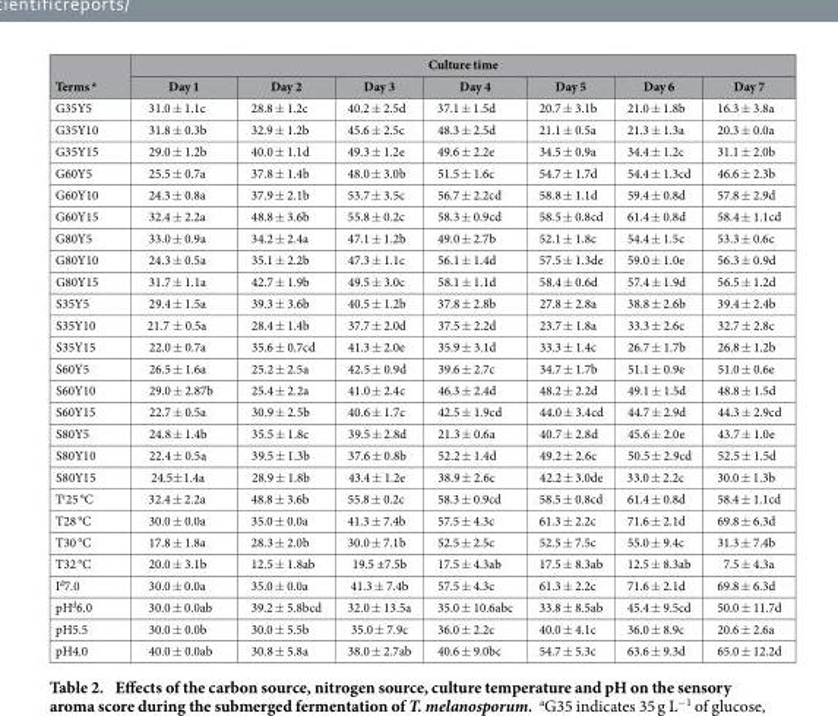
<table><thead><tr><td rowspan="2">Terms a</td><td colspan="7">Culture time</td></tr><tr><td>Day 1</td><td>Day 2</td><td>Day 3</td><td>Day 4</td><td>Day 5</td><td>Day 6</td><td>Day 7</td></tr></thead><tbody><tr><td>G35Y5</td><td>31.0 ± 1.1c</td><td>28.8 ± 1.2c</td><td>40.2 ± 2.5d</td><td>37.1 ± 1.5d</td><td>20.7 ± 3.1b</td><td>21.0 ± 1.8b</td><td>16.3 ± 3.8a</td></tr><tr><td>G35Y10</td><td>31.8 ± 0.3b</td><td>32.9 ± 1.2b</td><td>45.6 ± 2.5c</td><td>48.3 ± 2.5d</td><td>21.1 ± 0.5a</td><td>21.3 ± 1.3a</td><td>20.3 ± 0.0a</td></tr><tr><td>G35Y15</td><td>29.0 ± 1.2b</td><td>40.0 ± 1.1d</td><td>49.3 ± 1.2e</td><td>49.6 ± 2.2e</td><td>34.5 ± 0.9a</td><td>34.4 ± 1.2c</td><td>31.1 ± 2.0b</td></tr><tr><td>G60Y5</td><td>25.5 ± 0.7a</td><td>37.8 ± 1.4b</td><td>48.0 ± 3.0b</td><td>51.5 ± 1.6c</td><td>54.7 ± 1.7d</td><td>54.4 ± 1.3cd</td><td>46.6 ± 2.3b</td></tr><tr><td>G60Y10</td><td>24.3 ± 0.8a</td><td>37.9 ± 2.1b</td><td>53.7 ± 3.5c</td><td>56.7 ± 2.2cd</td><td>58.8 ± 1.1d</td><td>59.4 ± 0.8d</td><td>57.8 ± 2.9d</td></tr><tr><td>G60Y15</td><td>32.4 ± 2.2a</td><td>48.8 ± 3.6b</td><td>55.8 ± 0.2c</td><td>58.3 ± 0.9cd</td><td>58.5 ± 0.8cd</td><td>61.4 ± 0.8d</td><td>58.4 ± 1.1cd</td></tr><tr><td>G80Y5</td><td>33.0 ± 0.9a</td><td>34.2 ± 2.4a</td><td>47.1 ± 1.2b</td><td>49.0 ± 2.7b</td><td>52.1 ± 1.8c</td><td>54.4 ± 1.5c</td><td>53.3 ± 0.6c</td></tr><tr><td>G80Y10</td><td>24.3 ± 0.5a</td><td>35.1 ± 2.2b</td><td>47.3 ± 1.1c</td><td>56.1 ± 1.4d</td><td>57.5 ± 1.3de</td><td>59.0 ± 1.0e</td><td>56.3 ± 0.9d</td></tr><tr><td>G80Y15</td><td>31.7 ± 1.1a</td><td>42.7 ± 1.9b</td><td>49.5 ± 3.0c</td><td>58.1 ± 1.1d</td><td>58.4 ± 0.6d</td><td>57.4 ± 1.9d</td><td>56.5 ± 1.2d</td></tr><tr><td>S35Y5</td><td>29.4 ± 1.5a</td><td>39.3 ± 3.6b</td><td>40.5 ± 1.2b</td><td>37.8 ± 2.8b</td><td>27.8 ± 2.8a</td><td>38.8 ± 2.6b</td><td>39.4 ± 2.4b</td></tr><tr><td>S35Y10</td><td>21.7 ± 0.5a</td><td>28.4 ± 1.4b</td><td>37.7 ± 2.0d</td><td>37.5 ± 2.2d</td><td>23.7 ± 1.8a</td><td>33.3 ± 2.6c</td><td>32.7 ± 2.8c</td></tr><tr><td>S35Y15</td><td>22.0 ± 0.7a</td><td>35.6 ± 0.7cd</td><td>41.3 ± 2.0e</td><td>35.9 ± 3.1d</td><td>33.3 ± 1.4c</td><td>26.7 ± 1.7b</td><td>26.8 ± 1.2b</td></tr><tr><td>S60Y5</td><td>26.5 ± 1.6a</td><td>25.2 ± 2.5a</td><td>42.5 ± 0.9d</td><td>39.6 ± 2.7c</td><td>34.7 ± 1.7b</td><td>51.1 ± 0.9e</td><td>51.0 ± 0.6e</td></tr><tr><td>S60Y10</td><td>29.0 ± 2.87b</td><td>25.4 ± 2.2a</td><td>41.0 ± 2.4c</td><td>46.3 ± 2.4d</td><td>48.2 ± 2.2d</td><td>49.1 ± 1.5d</td><td>48.8 ± 1.5d</td></tr><tr><td>S60Y15</td><td>22.7 ± 0.5a</td><td>30.9 ± 2.5b</td><td>40.6 ± 1.7c</td><td>42.5 ± 1.9cd</td><td>44.0 ± 3.4cd</td><td>44.7 ± 2.9d</td><td>44.3 ± 2.9cd</td></tr><tr><td>S80Y5</td><td>24.8 ± 1.4b</td><td>35.5 ± 1.8c</td><td>39.5 ± 2.8d</td><td>21.3 ± 0.6a</td><td>40.7 ± 2.8d</td><td>45.6 ± 2.0e</td><td>43.7 ± 1.0e</td></tr><tr><td>S80Y10</td><td>22.4 ± 0.5a</td><td>39.5 ± 1.3b</td><td>37.6 ± 0.8b</td><td>52.2 ± 1.4d</td><td>49.2 ± 2.6c</td><td>50.5 ± 2.9cd</td><td>52.5 ± 1.5d</td></tr><tr><td>S80Y15</td><td>24.5± 1.4a</td><td>28.9 ± 1.8b</td><td>43.4 ± 1.2e</td><td>38.9 ± 2.6c</td><td>42.2 ± 3.0de</td><td>33.0 ± 2.2c</td><td>30.0 ± 1.3b</td></tr><tr><td>T<sup>c</sup>25 °C</td><td>32.4 ± 2.2a</td><td>48.8 ± 3.6b</td><td>55.8 ± 0.2c</td><td>58.3 ± 0.9cd</td><td>58.5 ± 0.8cd</td><td>61.4 ± 0.8d</td><td>58.4 ± 1.1cd</td></tr><tr><td>T28 °C</td><td>30.0 ± 0.0a</td><td>35.0 ± 0.0a</td><td>41.3 ± 7.4b</td><td>57.5 ± 4.3c</td><td>61.3 ± 2.2c</td><td>71.6 ± 2.1d</td><td>69.8 ± 6.3d</td></tr><tr><td>T30 °C</td><td>17.8 ± 1.8a</td><td>28.3 ± 2.0b</td><td>30.0 ± 7.1b</td><td>52.5 ± 2.5c</td><td>52.5 ± 7.5c</td><td>55.0 ± 9.4c</td><td>31.3 ± 7.4b</td></tr><tr><td>T32 °C</td><td>20.0 ± 3.1b</td><td>12.5 ± 1.8ab</td><td>19.5 ±7.5b</td><td>17.5 ± 4.3ab</td><td>17.5 ± 8.3ab</td><td>12.5 ± 8.3ab</td><td>7.5 ± 4.3a</td></tr><tr><td>I<sup>d</sup>7.0</td><td>30.0 ± 0.0a</td><td>35.0 ± 0.0a</td><td>41.3 ± 7.4b</td><td>57.5 ± 4.3c</td><td>61.3 ± 2.2c</td><td>71.6 ± 2.1d</td><td>69.8 ± 6.3d</td></tr><tr><td>pH<sup>d</sup>6.0</td><td>30.0 ± 0.0ab</td><td>39.2 ± 5.8bcd</td><td>32.0 ± 13.5a</td><td>35.0 ± 10.6abc</td><td>33.8 ± 8.5ab</td><td>45.4 ± 9.5cd</td><td>50.0 ± 11.7d</td></tr><tr><td>pH5.5</td><td>30.0 ± 0.0b</td><td>30.0 ± 5.5b</td><td>35.0 ± 7.9c</td><td>36.0 ± 2.2c</td><td>40.0 ± 4.1c</td><td>36.0 ± 8.9c</td><td>20.6 ± 2.6a</td></tr><tr><td>pH4.0</td><td>40.0 ± 0.0ab</td><td>30.8 ± 5.8a</td><td>38.0 ± 2.7ab</td><td>40.6 ± 9.0bc</td><td>54.7 ± 5.3c</td><td>63.6 ± 9.3d</td><td>65.0 ± 12.2d</td></tr></tbody></table>